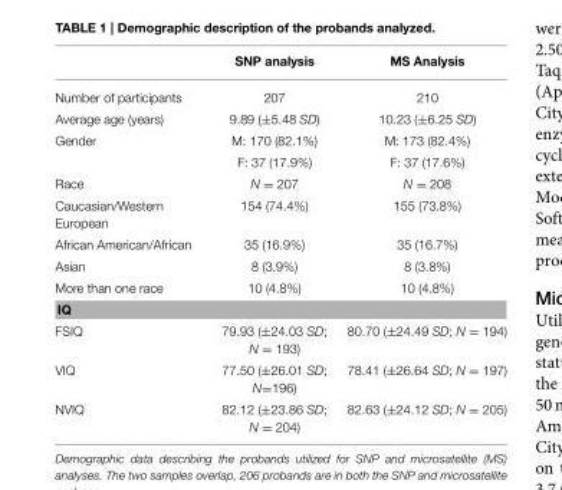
<table><thead><tr><td></td><td>SNP analysis</td><td>MS Analysis</td></tr></thead><tbody><tr><td>Number of participants</td><td>207</td><td>210</td></tr><tr><td>Average age (years)</td><td>9.89 (±5.48 SD)</td><td>10.23 (±6.25 SD)</td></tr><tr><td rowspan="2">Gender</td><td>M: 170 (82.1%)</td><td>M: 173 (82.4%)</td></tr><tr><td>F: 37 (17.9%)</td><td>F: 37 (17.6%)</td></tr><tr><td>Race</td><td>N = 207</td><td>N = 208</td></tr><tr><td>Caucasian/Western European</td><td>154 (74.4%)</td><td>155 (73.8%)</td></tr><tr><td>African American/African</td><td>35 (16.9%)</td><td>35 (16.7%)</td></tr><tr><td>Asian</td><td>8 (3.9%)</td><td>8 (3.8%)</td></tr><tr><td>More than one race</td><td>10 (4.8%)</td><td>10 (4.8%)</td></tr><tr><td colspan="3">IQ</td></tr><tr><td>FSIQ</td><td>79.93 (±24.03 SD; N = 193)</td><td>80.70 (±24.49 SD; N = 194)</td></tr><tr><td>VIQ</td><td>77.50 (±26.01 SD; N=196)</td><td>78.41 (±26.64 SD; N = 197)</td></tr><tr><td>NVIQ</td><td>82.12 (±23.86 SD; N = 204)</td><td>82.63 (±24.12 SD; N = 205)</td></tr></tbody></table>